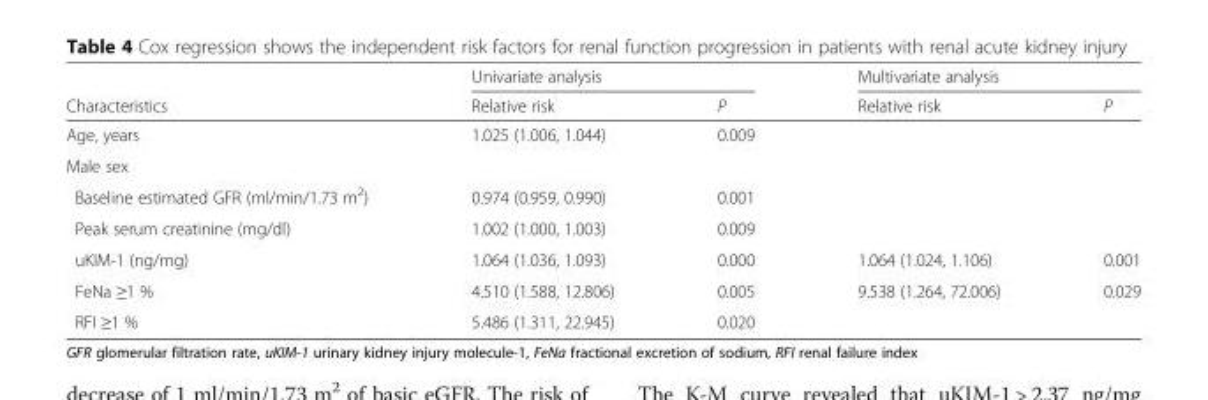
<table><thead><tr><td rowspan="2">Characteristics</td><td colspan="2">Univariate analysis</td><td colspan="2">Multivariate analysis</td></tr><tr><td>Relative risk</td><td>P</td><td>Relative risk</td><td>P</td></tr></thead><tbody><tr><td>Age, years</td><td>1.025 (1.006, 1.044)</td><td>0.009</td><td></td><td></td></tr><tr><td colspan="5">Male sex</td></tr><tr><td>Baseline estimated GFR (ml/min/1.73 m<sup>2</sup>)</td><td>0.974 (0.959, 0.990)</td><td>0.001</td><td></td><td></td></tr><tr><td>Peak serum creatinine (mg/dl)</td><td>1.002 (1.000, 1.003)</td><td>0.009</td><td></td><td></td></tr><tr><td>uKIM-1 (ng/mg)</td><td>1.064 (1.036, 1.093)</td><td>0.000</td><td>1.064 (1.024, 1.106)</td><td>0.001</td></tr><tr><td>FeNa ≥1 %</td><td>4.510 (1.588, 12.806)</td><td>0.005</td><td>9.538 (1.264, 72.006)</td><td>0.029</td></tr><tr><td>RFI ≥1 %</td><td>5.486 (1.311, 22.945)</td><td>0.020</td><td></td><td></td></tr></tbody></table>